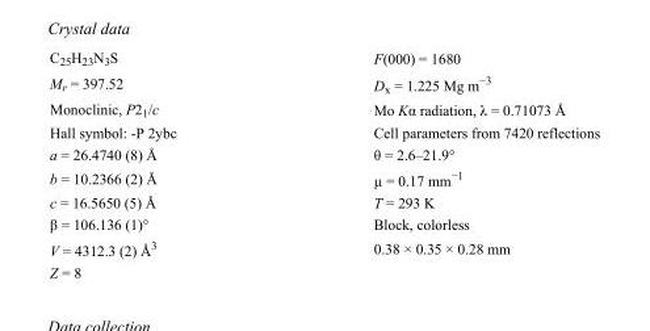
<table><tbody><tr><td>C<sub>25</sub>H<sub>23</sub>N<sub>3</sub>S</td><td>F(000) = 1680</td></tr><tr><td>M<sub>r</sub> = 397.52</td><td>D<sub>x</sub> = 1.225 Mg m<sup>−3</sup></td></tr><tr><td>Monoclinic, P2<sub>1</sub>/c</td><td>Mo Kα radiation, λ = 0.71073 Å</td></tr><tr><td>Hall symbol: -P 2ybc</td><td>Cell parameters from 7420 reflections</td></tr><tr><td>a = 26.4740 (8) Å</td><td>θ = 2.6–21.9°</td></tr><tr><td>b = 10.2366 (2) Å</td><td>µ = 0.17 mm<sup>−1</sup></td></tr><tr><td>c = 16.5650 (5) Å</td><td>T = 293 K</td></tr><tr><td>β = 106.136 (1)°</td><td>Block, colorless</td></tr><tr><td>V = 4312.3 (2) Å<sup>3</sup></td><td>0.38 × 0.35 × 0.28 mm</td></tr><tr><td>Z = 8</td><td></td></tr></tbody></table>